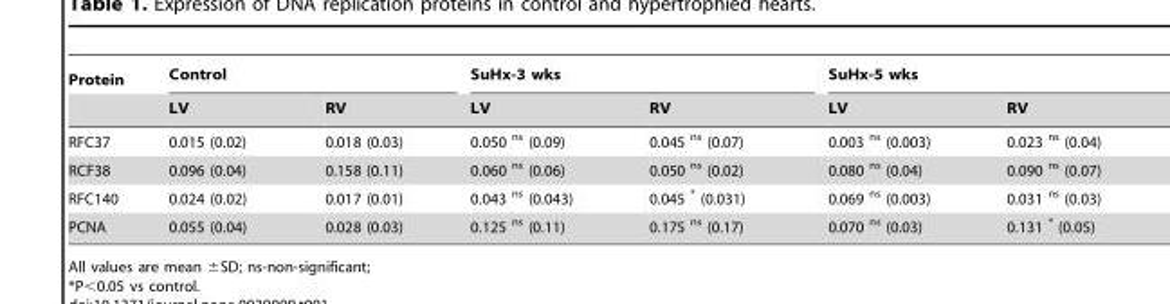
<table><thead><tr><td rowspan="2">Protein</td><td colspan="2">Control</td><td colspan="2">SuHx-3 wks</td><td colspan="2">SuHx-5 wks</td></tr><tr><td>LV</td><td>RV</td><td>LV</td><td>RV</td><td>LV</td><td>RV</td></tr></thead><tbody><tr><td>RFC37</td><td>0.015 (0.02)</td><td>0.018 (0.03)</td><td>0.050 <sup>ns</sup> (0.09)</td><td>0.045 <sup>ns</sup> (0.07)</td><td>0.003 <sup>ns</sup> (0.003)</td><td>0.023 <sup>ns</sup> (0.04)</td></tr><tr><td>RCF38</td><td>0.096 (0.04)</td><td>0.158 (0.11)</td><td>0.060 <sup>ns</sup> (0.06)</td><td>0.050 <sup>ns</sup> (0.02)</td><td>0.080 <sup>ns</sup> (0.04)</td><td>0.090 <sup>ns</sup> (0.07)</td></tr><tr><td>RFC140</td><td>0.024 (0.02)</td><td>0.017 (0.01)</td><td>0.043 <sup>ns</sup> (0.043)</td><td>0.045 * (0.031)</td><td>0.069 <sup>ns</sup> (0.003)</td><td>0.031 <sup>ns</sup> (0.03)</td></tr><tr><td>PCNA</td><td>0.055 (0.04)</td><td>0.028 (0.03)</td><td>0.125 <sup>ns</sup> (0.11)</td><td>0.175 <sup>ns</sup> (0.17)</td><td>0.070 <sup>ns</sup> (0.03)</td><td>0.131 * (0.05)</td></tr></tbody></table>